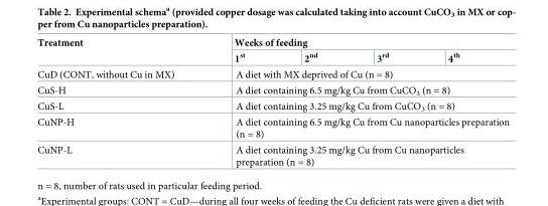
<table><thead><tr><td rowspan="2">Treatment</td><td colspan="4">Weeks of feeding</td></tr><tr><td>1<sup>st</sup></td><td>2<sup>nd</sup></td><td>3<sup>rd</sup></td><td>4<sup>th</sup></td></tr></thead><tbody><tr><td>CuD (CONT, without Cu in MX)</td><td colspan="4">A diet with MX deprived of Cu (n = 8)</td></tr><tr><td>CuS-H</td><td colspan="4">A diet containing 6.5 mg/kg Cu from CuCO<sub>3</sub> (n = 8)</td></tr><tr><td>CuS-L</td><td colspan="4">A diet containing 3.25 mg/kg Cu from CuCO<sub>3</sub> (n = 8)</td></tr><tr><td>CuNP-H</td><td colspan="4">A diet containing 6.5 mg/kg Cu from Cu nanoparticles preparation (n = 8)</td></tr><tr><td>CuNP-L</td><td colspan="4">A diet containing 3.25 mg/kg Cu from Cu nanoparticles preparation (n = 8)</td></tr></tbody></table>